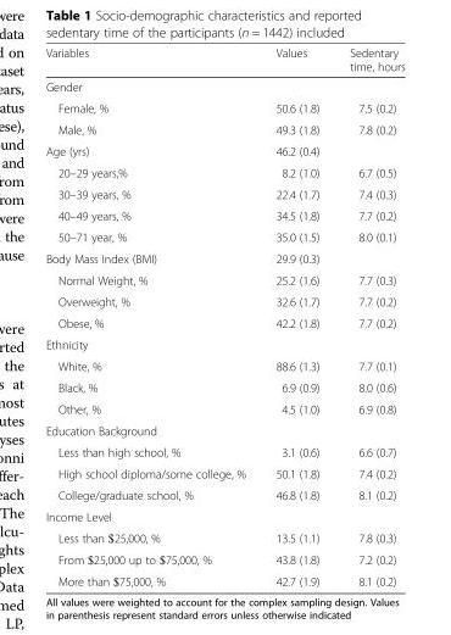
<table><thead><tr><td>Variables</td><td>Values</td><td>Sedentary time, hours</td></tr></thead><tbody><tr><td colspan="3">Gender</td></tr><tr><td>Female, %</td><td>50.6 (1.8)</td><td>7.5 (0.2)</td></tr><tr><td>Male, %</td><td>49.3 (1.8)</td><td>7.8 (0.2)</td></tr><tr><td>Age (yrs)</td><td>46.2 (0.4)</td><td></td></tr><tr><td>20–29 years,%</td><td>8.2 (1.0)</td><td>6.7 (0.5)</td></tr><tr><td>30–39 years, %</td><td>22.4 (1.7)</td><td>7.4 (0.3)</td></tr><tr><td>40–49 years, %</td><td>34.5 (1.8)</td><td>7.7 (0.2)</td></tr><tr><td>50–71 year, %</td><td>35.0 (1.5)</td><td>8.0 (0.1)</td></tr><tr><td>Body Mass Index (BMI)</td><td>29.9 (0.3)</td><td></td></tr><tr><td>Normal Weight, %</td><td>25.2 (1.6)</td><td>7.7 (0.3)</td></tr><tr><td>Overweight, %</td><td>32.6 (1.7)</td><td>7.7 (0.2)</td></tr><tr><td>Obese, %</td><td>42.2 (1.8)</td><td>7.7 (0.2)</td></tr><tr><td colspan="3">Ethnicity</td></tr><tr><td>White, %</td><td>88.6 (1.3)</td><td>7.7 (0.1)</td></tr><tr><td>Black, %</td><td>6.9 (0.9)</td><td>8.0 (0.6)</td></tr><tr><td>Other, %</td><td>4.5 (1.0)</td><td>6.9 (0.8)</td></tr><tr><td colspan="3">Education Background</td></tr><tr><td>Less than high school, %</td><td>3.1 (0.6)</td><td>6.6 (0.7)</td></tr><tr><td>High school diploma/some college, %</td><td>50.1 (1.8)</td><td>7.4 (0.2)</td></tr><tr><td>College/graduate school, %</td><td>46.8 (1.8)</td><td>8.1 (0.2)</td></tr><tr><td colspan="3">Income Level</td></tr><tr><td>Less than $25,000, %</td><td>13.5 (1.1)</td><td>7.8 (0.3)</td></tr><tr><td>From $25,000 up to $75,000, %</td><td>43.8 (1.8)</td><td>7.2 (0.2)</td></tr><tr><td>More than $75,000, %</td><td>42.7 (1.9)</td><td>8.1 (0.2)</td></tr></tbody></table>